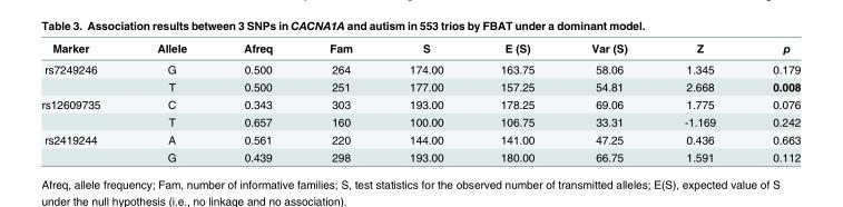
<table><thead><tr><td>Marker</td><td>Allele</td><td>Afreq</td><td>Fam</td><td>S</td><td>E (S)</td><td>Var (S)</td><td>Z</td><td>p</td></tr></thead><tbody><tr><td rowspan="2">rs7249246</td><td>G</td><td>0.500</td><td>264</td><td>174.00</td><td>163.75</td><td>58.06</td><td>1.345</td><td>0.179</td></tr><tr><td>T</td><td>0.500</td><td>251</td><td>177.00</td><td>157.25</td><td>54.81</td><td>2.668</td><td>0.008</td></tr><tr><td rowspan="2">rs12609735</td><td>C</td><td>0.343</td><td>303</td><td>193.00</td><td>178.25</td><td>69.06</td><td>1.775</td><td>0.076</td></tr><tr><td>T</td><td>0.657</td><td>160</td><td>100.00</td><td>106.75</td><td>33.31</td><td>-1.169</td><td>0.242</td></tr><tr><td rowspan="2">rs2419244</td><td>A</td><td>0.561</td><td>220</td><td>144.00</td><td>141.00</td><td>47.25</td><td>0.436</td><td>0.663</td></tr><tr><td>G</td><td>0.439</td><td>298</td><td>193.00</td><td>180.00</td><td>66.75</td><td>1.591</td><td>0.112</td></tr></tbody></table>